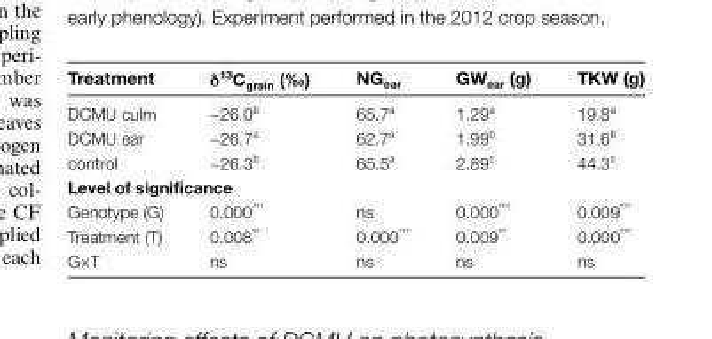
<table><thead><tr><td>Treatment</td><td>δ<sup>13</sup>C<sub>grain</sub> (‰)</td><td>NG<sub>ear</sub></td><td>GW<sub>ear</sub> (g)</td><td>TKW (g)</td></tr></thead><tbody><tr><td>DCMU culm</td><td>−26.0<sup>b</sup></td><td>65.7<sup>a</sup></td><td>1.29<sup>a</sup></td><td>19.8<sup>a</sup></td></tr><tr><td>DCMU ear</td><td>−26.7<sup>a</sup></td><td>62.7<sup>a</sup></td><td>1.99<sup>b</sup></td><td>31.6<sup>b</sup></td></tr><tr><td>control</td><td>−26.3<sup>b</sup></td><td>65.5<sup>a</sup></td><td>2.89<sup>c</sup></td><td>44.3<sup>c</sup></td></tr><tr><td colspan="5">Level of significance</td></tr><tr><td>Genotype (G)</td><td>0.000***</td><td>ns</td><td>0.000***</td><td>0.009***</td></tr><tr><td>Treatment (T)</td><td>0.008**</td><td>0.000***</td><td>0.009**</td><td>0.000***</td></tr><tr><td>G×T</td><td>ns</td><td>ns</td><td>ns</td><td>ns</td></tr></tbody></table>